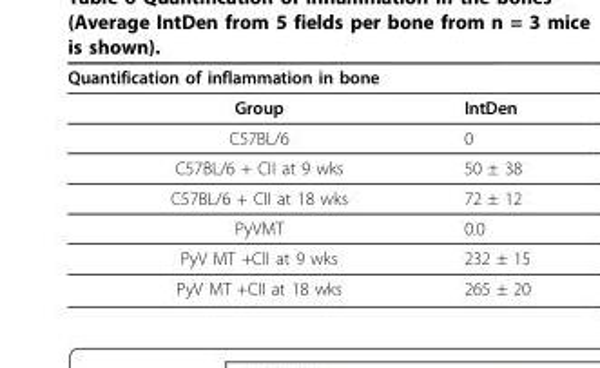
<table><thead><tr><td>Quantification of inflammation in bone</td><td></td></tr></thead><tbody><tr><td>Group</td><td>IntDen</td></tr><tr><td>C57BL/6</td><td>0</td></tr><tr><td>C57BL/6 + CII at 9 wks</td><td>50 ± 38</td></tr><tr><td>C57BL/6 + CII at 18 wks</td><td>72 ± 12</td></tr><tr><td>PyVMT</td><td>0.0</td></tr><tr><td>PyV MT +CII at 9 wks</td><td>232 ± 15</td></tr><tr><td>PyV MT +CII at 18 wks</td><td>265 ± 20</td></tr></tbody></table>